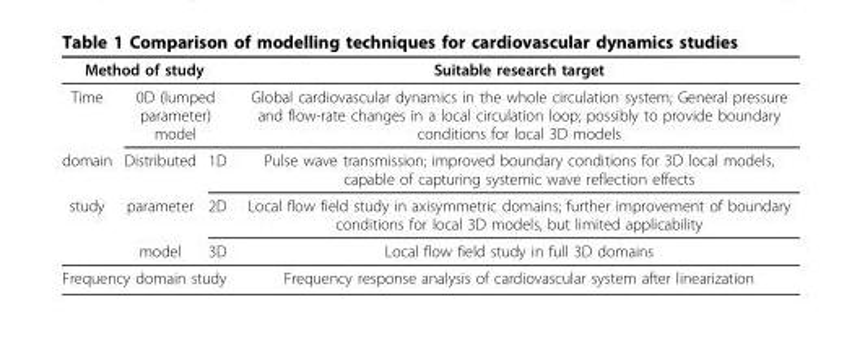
<table><thead><tr><td colspan="3">Method of study</td><td rowspan="3">Suitable research target Global cardiovascular dynamics in the whole circulation system; General pressure and flow-rate changes in a local circulation loop; possibly to provide boundary conditions for local 3D models Pulse wave transmission; improved boundary conditions for 3D local models, capable of capturing systemic wave reflection effects</td></tr><tr><td rowspan="2">Time domain</td><td colspan="2">0D (lumped parameter) model</td></tr><tr><td>Distributed</td><td>1D</td></tr></thead><tbody><tr><td rowspan="2">study</td><td>parameter</td><td>2D</td><td>Local flow field study in axisymmetric domains; further improvement of boundary conditions for local 3D models, but limited applicability</td></tr><tr><td>model</td><td>3D</td><td>Local flow field study in full 3D domains</td></tr><tr><td colspan="3">Frequency domain study</td><td>Frequency response analysis of cardiovascular system after linearization</td></tr></tbody></table>